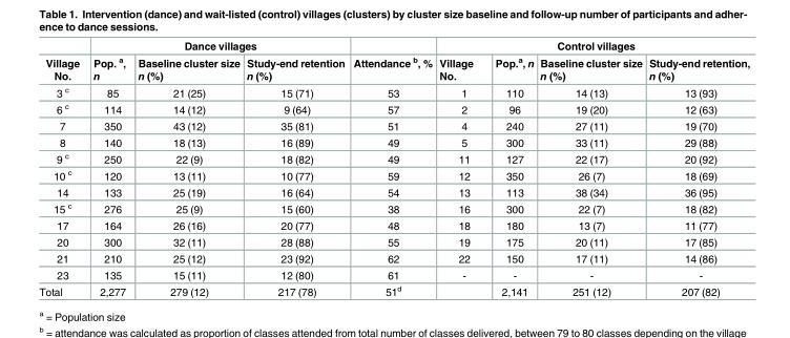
<table><thead><tr><td rowspan="2">Village No.</td><td colspan="3">Dance villages</td><td rowspan="2">Attendance <sup>b</sup>, %</td><td colspan="4">Control villages</td></tr><tr><td>Pop. <sup>a</sup>, n</td><td>Baseline cluster size n (%)</td><td>Study-end retention n (%)</td><td>Village No.</td><td>Pop.<sup>a</sup>, n</td><td>Baseline cluster size n (%)</td><td>Study-end retention, n (%)</td></tr></thead><tbody><tr><td>3 <sup>c</sup></td><td>85</td><td>21 (25)</td><td>15 (71)</td><td>53</td><td>1</td><td>110</td><td>14 (13)</td><td>13 (93)</td></tr><tr><td>6 <sup>c</sup></td><td>114</td><td>14 (12)</td><td>9 (64)</td><td>57</td><td>2</td><td>96</td><td>19 (20)</td><td>12 (63)</td></tr><tr><td>7</td><td>350</td><td>43 (12)</td><td>35 (81)</td><td>51</td><td>4</td><td>240</td><td>27 (11)</td><td>19 (70)</td></tr><tr><td>8</td><td>140</td><td>18 (13)</td><td>16 (89)</td><td>49</td><td>5</td><td>300</td><td>33 (11)</td><td>29 (88)</td></tr><tr><td>9 <sup>c</sup></td><td>250</td><td>22 (9)</td><td>18 (82)</td><td>49</td><td>11</td><td>127</td><td>22 (17)</td><td>20 (92)</td></tr><tr><td>10 <sup>c</sup></td><td>120</td><td>13 (11)</td><td>10 (77)</td><td>59</td><td>12</td><td>350</td><td>26 (7)</td><td>18 (69)</td></tr><tr><td>14</td><td>133</td><td>25 (19)</td><td>16 (64)</td><td>54</td><td>13</td><td>113</td><td>38 (34)</td><td>36 (95)</td></tr><tr><td>15 <sup>c</sup></td><td>276</td><td>25 (9)</td><td>15 (60)</td><td>38</td><td>16</td><td>300</td><td>22 (7)</td><td>18 (82)</td></tr><tr><td>17</td><td>164</td><td>26 (16)</td><td>20 (77)</td><td>48</td><td>18</td><td>180</td><td>13 (7)</td><td>11 (77)</td></tr><tr><td>20</td><td>300</td><td>32 (11)</td><td>28 (88)</td><td>55</td><td>19</td><td>175</td><td>20 (11)</td><td>17 (85)</td></tr><tr><td>21</td><td>210</td><td>25 (12)</td><td>23 (92)</td><td>62</td><td>22</td><td>150</td><td>17 (11)</td><td>14 (86)</td></tr><tr><td>23</td><td>135</td><td>15 (11)</td><td>12 (80)</td><td>61</td><td>-</td><td>-</td><td>-</td><td>-</td></tr><tr><td>Total</td><td>2,277</td><td>279 (12)</td><td>217 (78)</td><td>51<sup>d</sup></td><td></td><td>2,141</td><td>251 (12)</td><td>207 (82)</td></tr></tbody></table>